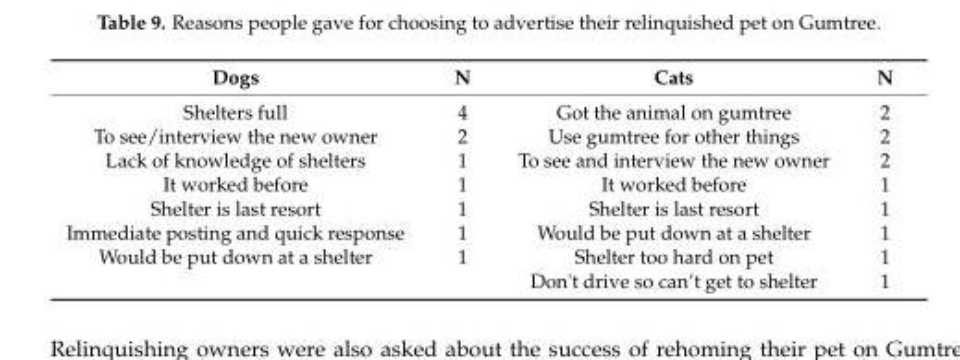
<table><thead><tr><td>Dogs</td><td>N</td><td>Cats</td><td>N</td></tr></thead><tbody><tr><td>Shelters full</td><td>4</td><td>Got the animal on gumtree</td><td>2</td></tr><tr><td>To see/interview the new owner</td><td>2</td><td>Use gumtree for other things</td><td>2</td></tr><tr><td>Lack of knowledge of shelters</td><td>1</td><td>To see and interview the new owner</td><td>2</td></tr><tr><td>It worked before</td><td>1</td><td>It worked before</td><td>1</td></tr><tr><td>Shelter is last resort</td><td>1</td><td>Shelter is last resort</td><td>1</td></tr><tr><td>Immediate posting and quick response</td><td>1</td><td>Would be put down at a shelter</td><td>1</td></tr><tr><td rowspan="2">Would be put down at a shelter</td><td>1</td><td>Shelter too hard on pet</td><td>1</td></tr><tr><td></td><td>Don&#x27;t drive so can’t get to shelter</td><td>1</td></tr></tbody></table>